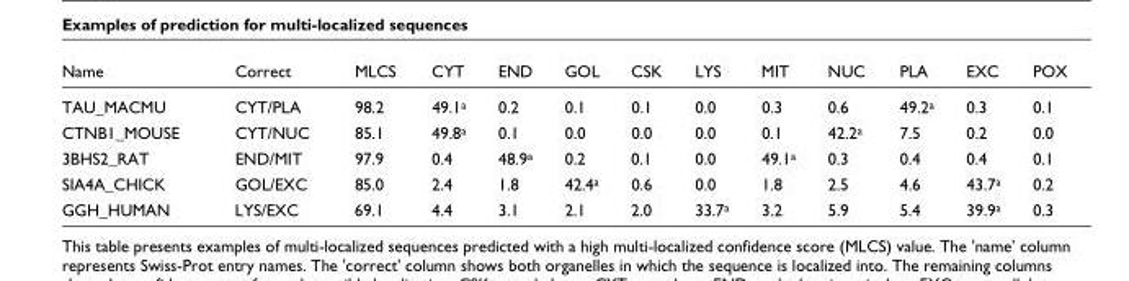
<table><thead><tr><td>Name</td><td>Correct</td><td>MLCS</td><td>CYT</td><td>END</td><td>GOL</td><td>CSK</td><td>LYS</td><td>MIT</td><td>NUC</td><td>PLA</td><td>EXC</td><td>POX</td></tr></thead><tbody><tr><td>TAU_MACMU</td><td>CYT/PLA</td><td>98.2</td><td>49.1<sup>a</sup></td><td>0.2</td><td>0.1</td><td>0.1</td><td>0.0</td><td>0.3</td><td>0.6</td><td>49.2<sup>a</sup></td><td>0.3</td><td>0.1</td></tr><tr><td>CTNB1_MOUSE</td><td>CYT/NUC</td><td>85.1</td><td>49.8<sup>a</sup></td><td>0.1</td><td>0.0</td><td>0.0</td><td>0.0</td><td>0.1</td><td>42.2<sup>a</sup></td><td>7.5</td><td>0.2</td><td>0.0</td></tr><tr><td>3BHS2_RAT</td><td>END/MIT</td><td>97.9</td><td>0.4</td><td>48.9<sup>a</sup></td><td>0.2</td><td>0.1</td><td>0.0</td><td>49.1<sup>a</sup></td><td>0.3</td><td>0.4</td><td>0.4</td><td>0.1</td></tr><tr><td>SIA4A_CHICK</td><td>GOL/EXC</td><td>85.0</td><td>2.4</td><td>1.8</td><td>42.4<sup>a</sup></td><td>0.6</td><td>0.0</td><td>1.8</td><td>2.5</td><td>4.6</td><td>43.7<sup>a</sup></td><td>0.2</td></tr><tr><td>GGH_HUMAN</td><td>LYS/EXC</td><td>69.1</td><td>4.4</td><td>3.1</td><td>2.1</td><td>2.0</td><td>33.7<sup>a</sup></td><td>3.2</td><td>5.9</td><td>5.4</td><td>39.9<sup>a</sup></td><td>0.3</td></tr></tbody></table>